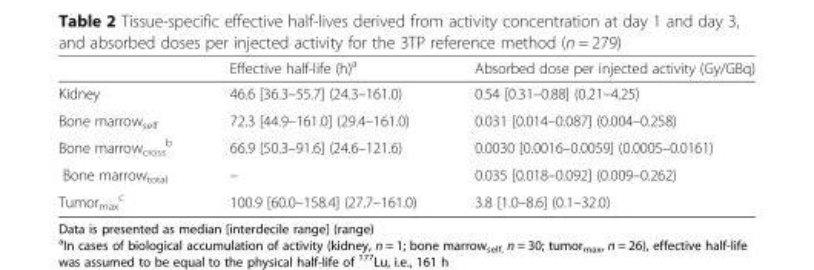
<table><thead><tr><td></td><td>Effective half-life (h)<sup>a</sup></td><td>Absorbed dose per injected activity (Gy/GBq)</td></tr></thead><tbody><tr><td>Kidney</td><td>46.6 [36.3–55.7] (24.3–161.0)</td><td>0.54 [0.31–0.88] (0.21–4.25)</td></tr><tr><td>Bone marrow<sub>self</sub></td><td>72.3 [44.9–161.0] (29.4–161.0)</td><td>0.031 [0.014–0.087] (0.004–0.258)</td></tr><tr><td>Bone marrow<sub>cross</sub> <sup>b</sup></td><td>66.9 [50.3–91.6] (24.6–121.6)</td><td>0.0030 [0.0016–0.0059] (0.0005–0.0161)</td></tr><tr><td>Bone marrow<sub>total</sub></td><td>–</td><td>0.035 [0.018–0.092] (0.009–0.262)</td></tr><tr><td>Tumor<sub>max</sub> <sup>c</sup></td><td>100.9 [60.0–158.4] (27.7–161.0)</td><td>3.8 [1.0–8.6] (0.1–32.0)</td></tr></tbody></table>